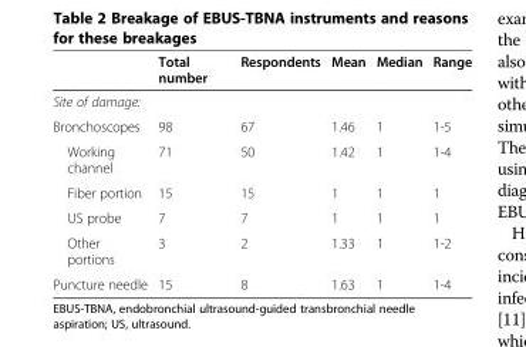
<table><thead><tr><td></td><td>Total number</td><td>Respondents</td><td>Mean</td><td>Median</td><td>Range</td></tr></thead><tbody><tr><td colspan="6">Site of damage:</td></tr><tr><td>Bronchoscopes</td><td>98</td><td>67</td><td>1.46</td><td>1</td><td>1-5</td></tr><tr><td>Working channel</td><td>71</td><td>50</td><td>1.42</td><td>1</td><td>1-4</td></tr><tr><td>Fiber portion</td><td>15</td><td>15</td><td>1</td><td>1</td><td>1</td></tr><tr><td>US probe</td><td>7</td><td>7</td><td>1</td><td>1</td><td>1</td></tr><tr><td>Other portions</td><td>3</td><td>2</td><td>1.33</td><td>1</td><td>1-2</td></tr><tr><td>Puncture needle</td><td>15</td><td>8</td><td>1.63</td><td>1</td><td>1-4</td></tr></tbody></table>